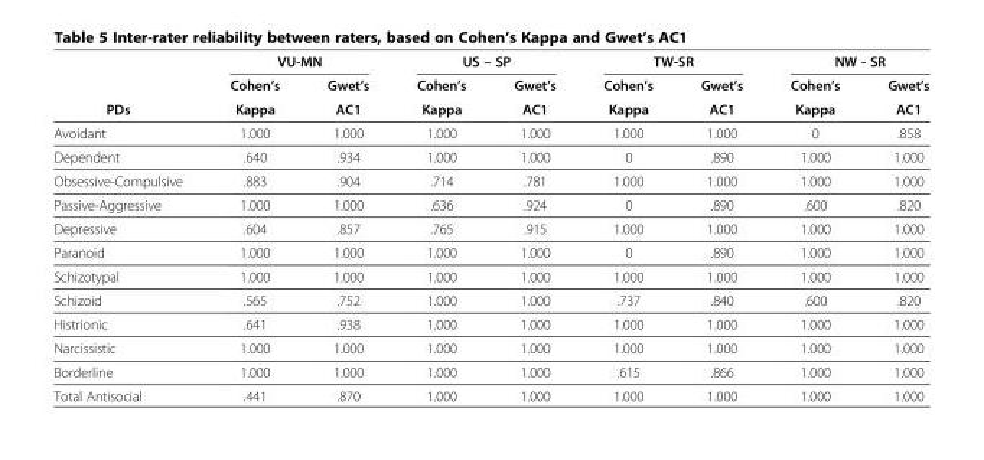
<table><thead><tr><td rowspan="3">PDs</td><td colspan="2">VU-MN</td><td colspan="2">US – SP</td><td colspan="2">TW-SR</td><td colspan="2">NW - SR</td></tr><tr><td rowspan="2">Cohen’s Kappa</td><td rowspan="2">Gwet’s AC1</td><td rowspan="2">Cohen’s Kappa</td><td rowspan="2">Gwet’s AC1</td><td rowspan="2">Cohen’s Kappa</td><td rowspan="2">Gwet’s AC1</td><td rowspan="2">Cohen’s Kappa</td><td rowspan="2">Gwet’s AC1</td></tr><tr></tr></thead><tbody><tr><td>Avoidant</td><td>1.000</td><td>1.000</td><td>1.000</td><td>1.000</td><td>1.000</td><td>1.000</td><td>0</td><td>.858</td></tr><tr><td>Dependent</td><td>.640</td><td>.934</td><td>1.000</td><td>1.000</td><td>0</td><td>.890</td><td>1.000</td><td>1.000</td></tr><tr><td>Obsessive-Compulsive</td><td>.883</td><td>.904</td><td>.714</td><td>.781</td><td>1.000</td><td>1.000</td><td>1.000</td><td>1.000</td></tr><tr><td>Passive-Aggressive</td><td>1.000</td><td>1.000</td><td>.636</td><td>.924</td><td>0</td><td>.890</td><td>.600</td><td>.820</td></tr><tr><td>Depressive</td><td>.604</td><td>.857</td><td>.765</td><td>.915</td><td>1.000</td><td>1.000</td><td>1.000</td><td>1.000</td></tr><tr><td>Paranoid</td><td>1.000</td><td>1.000</td><td>1.000</td><td>1.000</td><td>0</td><td>.890</td><td>1.000</td><td>1.000</td></tr><tr><td>Schizotypal</td><td>1.000</td><td>1.000</td><td>1.000</td><td>1.000</td><td>1.000</td><td>1.000</td><td>1.000</td><td>1.000</td></tr><tr><td>Schizoid</td><td>.565</td><td>.752</td><td>1.000</td><td>1.000</td><td>.737</td><td>.840</td><td>.600</td><td>.820</td></tr><tr><td>Histrionic</td><td>.641</td><td>.938</td><td>1.000</td><td>1.000</td><td>1.000</td><td>1.000</td><td>1.000</td><td>1.000</td></tr><tr><td>Narcissistic</td><td>1.000</td><td>1.000</td><td>1.000</td><td>1.000</td><td>1.000</td><td>1.000</td><td>1.000</td><td>1.000</td></tr><tr><td>Borderline</td><td>1.000</td><td>1.000</td><td>1.000</td><td>1.000</td><td>.615</td><td>.866</td><td>1.000</td><td>1.000</td></tr><tr><td>Total Antisocial</td><td>.441</td><td>.870</td><td>1.000</td><td>1.000</td><td>1.000</td><td>1.000</td><td>1.000</td><td>1.000</td></tr></tbody></table>